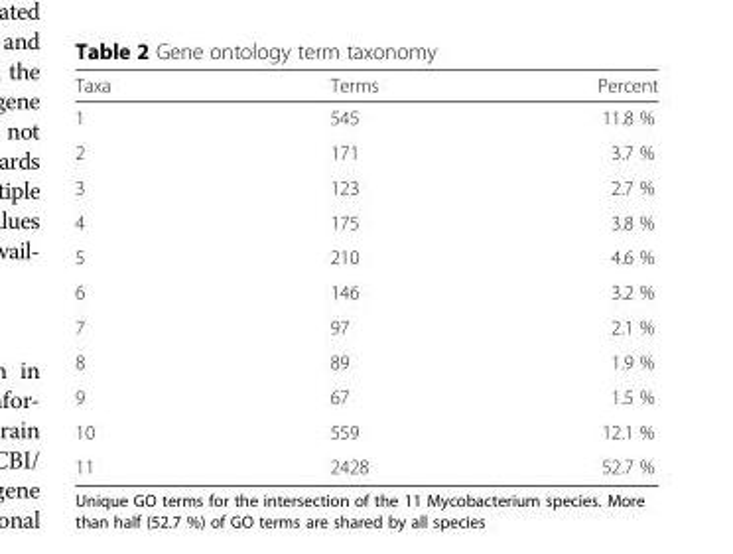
<table><thead><tr><td>Taxa</td><td>Terms</td><td>Percent</td></tr></thead><tbody><tr><td>1</td><td>545</td><td>11.8 %</td></tr><tr><td>2</td><td>171</td><td>3.7 %</td></tr><tr><td>3</td><td>123</td><td>2.7 %</td></tr><tr><td>4</td><td>175</td><td>3.8 %</td></tr><tr><td>5</td><td>210</td><td>4.6 %</td></tr><tr><td>6</td><td>146</td><td>3.2 %</td></tr><tr><td>7</td><td>97</td><td>2.1 %</td></tr><tr><td>8</td><td>89</td><td>1.9 %</td></tr><tr><td>9</td><td>67</td><td>1.5 %</td></tr><tr><td>10</td><td>559</td><td>12.1 %</td></tr><tr><td>11</td><td>2428</td><td>52.7 %</td></tr></tbody></table>